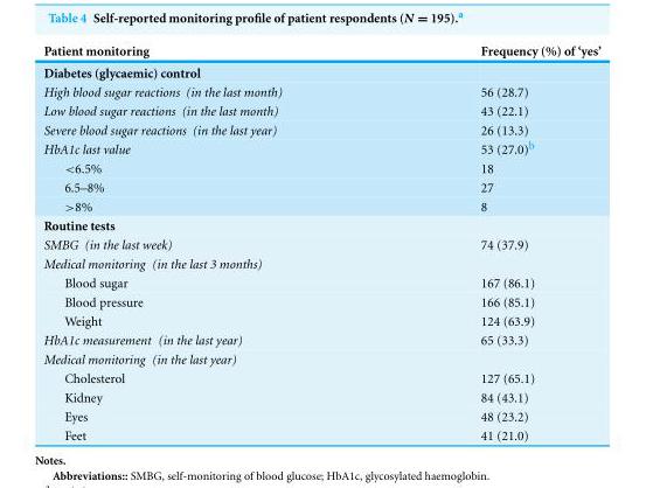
<table><thead><tr><td>Patient monitoring</td><td>Frequency (%) of ‘yes’</td></tr></thead><tbody><tr><td colspan="2">Diabetes (glycaemic) control</td></tr><tr><td>High blood sugar reactions (in the last month)</td><td>56 (28.7)</td></tr><tr><td>Low blood sugar reactions (in the last month)</td><td>43 (22.1)</td></tr><tr><td>Severe blood sugar reactions (in the last year)</td><td>26 (13.3)</td></tr><tr><td>HbA1c last value</td><td>53 (27.0)<sup>b</sup></td></tr><tr><td>&lt;6.5%</td><td>18</td></tr><tr><td>6.5–8%</td><td>27</td></tr><tr><td>&gt;8%</td><td>8</td></tr><tr><td colspan="2">Routine tests</td></tr><tr><td>SMBG (in the last week)</td><td>74 (37.9)</td></tr><tr><td colspan="2">Medical monitoring (in the last 3 months)</td></tr><tr><td>Blood sugar</td><td>167 (86.1)</td></tr><tr><td>Blood pressure</td><td>166 (85.1)</td></tr><tr><td>Weight</td><td>124 (63.9)</td></tr><tr><td>HbA1c measurement (in the last year)</td><td>65 (33.3)</td></tr><tr><td colspan="2">Medical monitoring (in the last year)</td></tr><tr><td>Cholesterol</td><td>127 (65.1)</td></tr><tr><td>Kidney</td><td>84 (43.1)</td></tr><tr><td>Eyes</td><td>48 (23.2)</td></tr><tr><td>Feet</td><td>41 (21.0)</td></tr></tbody></table>